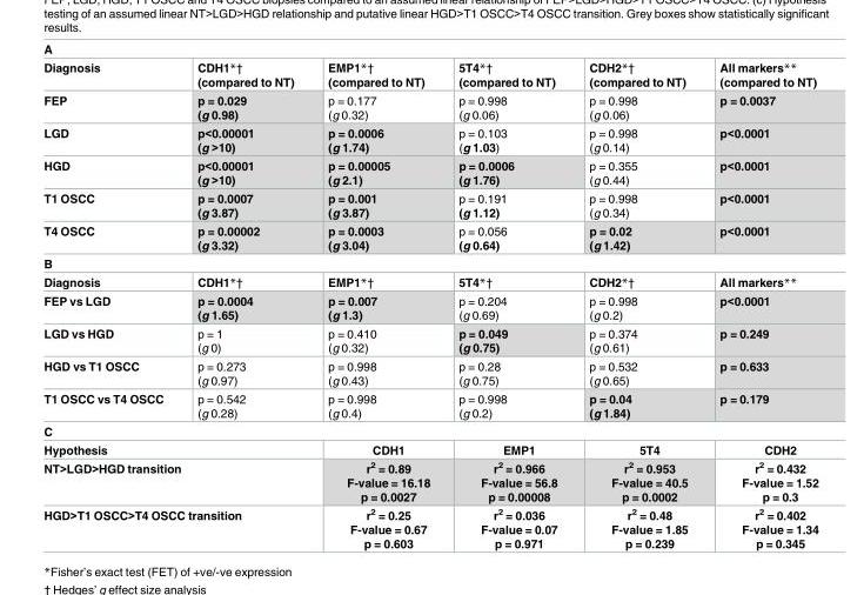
<table><tbody><tr><td colspan="6">A</td></tr><tr><td>Diagnosis</td><td>CDH1*† (compared to NT)</td><td>EMP1*† (compared to NT)</td><td>5T4*† (compared to NT)</td><td>CDH2*† (compared to NT)</td><td>All markers** (compared to NT)</td></tr><tr><td>FEP</td><td>p = 0.029 (g 0.98)</td><td>p = 0.177 (g 0.32)</td><td>p = 0.998 (g 0.06)</td><td>p = 0.998 (g 0.06)</td><td>p = 0.0037</td></tr><tr><td>LGD</td><td>p&lt;0.00001 (g &gt;10)</td><td>p = 0.0006 (g 1.74)</td><td>p = 0.103 (g 1.03)</td><td>p = 0.998 (g 0.14)</td><td>p&lt;0.0001</td></tr><tr><td>HGD</td><td>p&lt;0.00001 (g &gt;10)</td><td>p = 0.00005 (g 2.1)</td><td>p = 0.0006 (g 1.76)</td><td>p = 0.355 (g 0.44)</td><td>p&lt;0.0001</td></tr><tr><td>T1 OSCC</td><td>p = 0.0007 (g 3.87)</td><td>p = 0.001 (g 3.87)</td><td>p = 0.191 (g 1.12)</td><td>p = 0.998 (g 0.34)</td><td>p&lt;0.0001</td></tr><tr><td>T4 OSCC</td><td>p = 0.00002 (g 3.32)</td><td>p = 0.0003 (g 3.04)</td><td>p = 0.056 (g 0.64)</td><td>p = 0.02 (g 1.42)</td><td>p&lt;0.0001</td></tr><tr><td colspan="6">B</td></tr><tr><td>Diagnosis</td><td>CDH1*†</td><td>EMP1*†</td><td>5T4*†</td><td>CDH2*†</td><td>All markers**</td></tr><tr><td>FEP vs LGD</td><td>p = 0.0004 (g 1.65)</td><td>p = 0.007 (g 1.3)</td><td>p = 0.204 (g 0.69)</td><td>p = 0.998 (g 0.2)</td><td>p&lt;0.0001</td></tr><tr><td>LGD vs HGD</td><td>p = 1 (g 0)</td><td>p = 0.410 (g 0.32)</td><td>p = 0.049 (g 0.75)</td><td>p = 0.374 (g 0.61)</td><td>p = 0.249</td></tr><tr><td>HGD vs T1 OSCC</td><td>p = 0.273 (g 0.97)</td><td>p = 0.998 (g 0.43)</td><td>p = 0.28 (g 0.75)</td><td>p = 0.532 (g 0.65)</td><td>p = 0.633</td></tr><tr><td>T1 OSCC vs T4 OSCC</td><td>p = 0.542 (g 0.28)</td><td>p = 0.998 (g 0.4)</td><td>p = 0.998 (g 0.2)</td><td>p = 0.04 (g 1.84)</td><td>p = 0.179</td></tr><tr><td colspan="6">C</td></tr><tr><td colspan="2">Hypothesis</td><td>CDH1</td><td>EMP1</td><td>5T4</td><td>CDH2</td></tr><tr><td colspan="2">NT&gt;LGD&gt;HGD transition</td><td>r<sup>2</sup> = 0.89 F-value = 16.18 p = 0.0027</td><td>r<sup>2</sup> = 0.966 F-value = 56.8 p = 0.00008</td><td>r<sup>2</sup> = 0.953 F-value = 40.5 p = 0.0002</td><td>r<sup>2</sup> = 0.432 F-value = 1.52 p = 0.3</td></tr><tr><td colspan="2">HGD&gt;T1 OSCC&gt;T4 OSCC transition</td><td>r<sup>2</sup> = 0.25 F-value = 0.67 p = 0.603</td><td>r<sup>2</sup> = 0.036 F-value = 0.07 p = 0.971</td><td>r<sup>2</sup> = 0.48 F-value = 1.85 p = 0.239</td><td>r<sup>2</sup> = 0.402 F-value = 1.34 p = 0.345</td></tr></tbody></table>